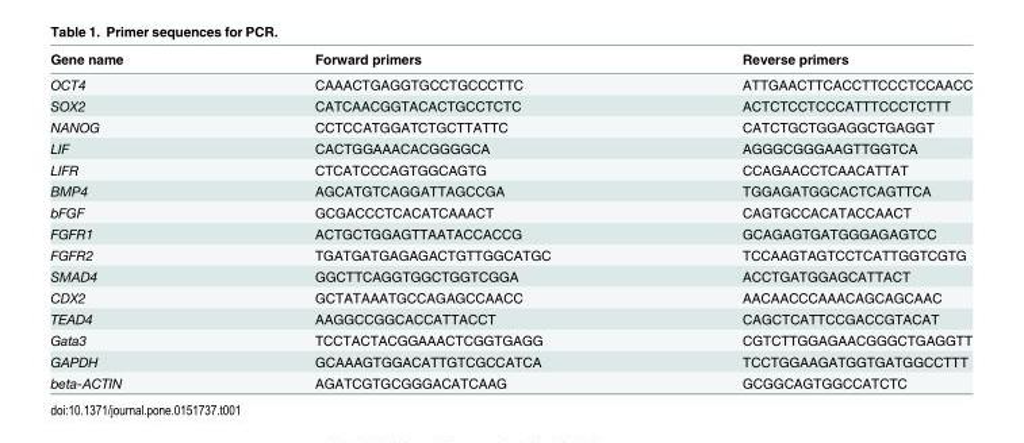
<table><thead><tr><td>Gene name</td><td>Forward primers</td><td>Reverse primers</td></tr></thead><tbody><tr><td>OCT4</td><td>CAAACTGAGGTGCCTGCCCTTC</td><td>ATTGAACTTCACCTTCCCTCCAACC</td></tr><tr><td>SOX2</td><td>CATCAACGGTACACTGCCTCTC</td><td>ACTCTCCTCCCATTTCCCTCTTT</td></tr><tr><td>NANOG</td><td>CCTCCATGGATCTGCTTATTC</td><td>CATCTGCTGGAGGCTGAGGT</td></tr><tr><td>LIF</td><td>CACTGGAAACACGGGGCA</td><td>AGGGCGGGAAGTTGGTCA</td></tr><tr><td>LIFR</td><td>CTCATCCCAGTGGCAGTG</td><td>CCAGAACCTCAACATTAT</td></tr><tr><td>BMP4</td><td>AGCATGTCAGGATTAGCCGA</td><td>TGGAGATGGCACTCAGTTCA</td></tr><tr><td>bFGF</td><td>GCGACCCTCACATCAAACT</td><td>CAGTGCCACATACCAACT</td></tr><tr><td>FGFR1</td><td>ACTGCTGGAGTTAATACCACCG</td><td>GCAGAGTGATGGGAGAGTCC</td></tr><tr><td>FGFR2</td><td>TGATGATGAGAGACTGTTGGCATGC</td><td>TCCAAGTAGTCCTCATTGGTCGTG</td></tr><tr><td>SMAD4</td><td>GGCTTCAGGTGGCTGGTCGGA</td><td>ACCTGATGGAGCATTACT</td></tr><tr><td>CDX2</td><td>GCTATAAATGCCAGAGCCAACC</td><td>AACAACCCAAACAGCAGCAAC</td></tr><tr><td>TEAD4</td><td>AAGGCCGGCACCATTACCT</td><td>CAGCTCATTCCGACCGTACAT</td></tr><tr><td>Gata3</td><td>TCCTACTACGGAAACTCGGTGAGG</td><td>CGTCTTGGAGAACGGGCTGAGGTT</td></tr><tr><td>GAPDH</td><td>GCAAAGTGGACATTGTCGCCATCA</td><td>TCCTGGAAGATGGTGATGGCCTTT</td></tr><tr><td>beta-ACTIN</td><td>AGATCGTGCGGGACATCAAG</td><td>GCGGCAGTGGCCATCTC</td></tr></tbody></table>